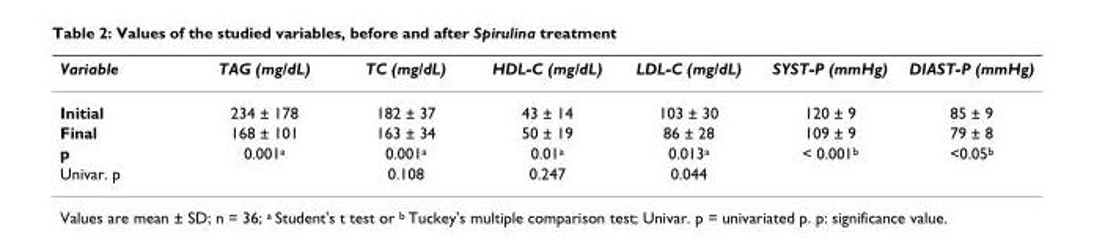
<table><thead><tr><td>Variable</td><td>TAG (mg/dL)</td><td>TC (mg/dL)</td><td>HDL-C (mg/dL)</td><td>LDL-C (mg/dL)</td><td>SYST-P (mmHg)</td><td>DIAST-P (mmHg)</td></tr></thead><tbody><tr><td>Initial</td><td>234 ± 178</td><td>182 ± 37</td><td>43 ± 14</td><td>103 ± 30</td><td>120 ± 9</td><td>85 ± 9</td></tr><tr><td>Final</td><td>168 ± 101</td><td>163 ± 34</td><td>50 ± 19</td><td>86 ± 28</td><td>109 ± 9</td><td>79 ± 8</td></tr><tr><td>p</td><td>0.001<sup>a</sup></td><td>0.001<sup>a</sup></td><td>0.01<sup>a</sup></td><td>0.013<sup>a</sup></td><td>&lt; 0.001<sup>b</sup></td><td>&lt;0.05<sup>b</sup></td></tr><tr><td>Univar. p</td><td></td><td>0.108</td><td>0.247</td><td>0.044</td><td></td><td></td></tr></tbody></table>